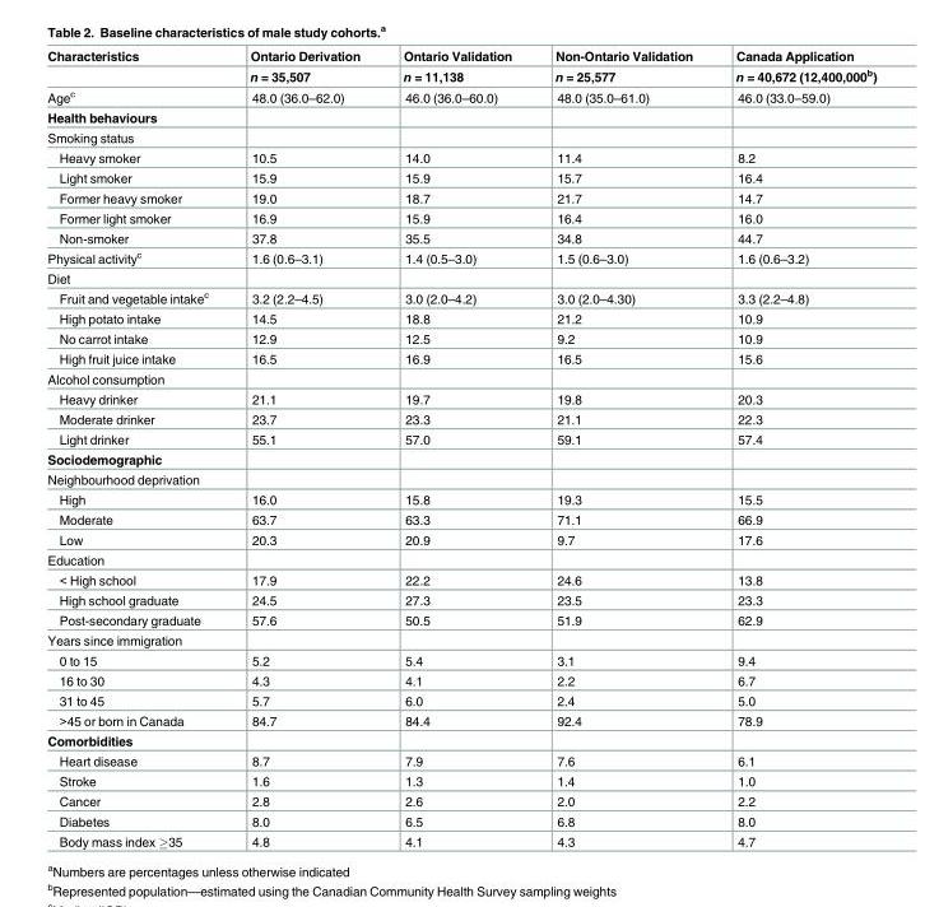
<table><thead><tr><td rowspan="2">Characteristics</td><td rowspan="2">Ontario Derivation n = 35,507</td><td rowspan="2">Ontario Validation n = 11,138</td><td rowspan="2">Non-Ontario Validation n = 25,577</td><td rowspan="2">Canada Application n = 40,672 (12,400,000<sup>b</sup>)</td></tr><tr></tr></thead><tbody><tr><td>Age<sup>c</sup></td><td>48.0 (36.0–62.0)</td><td>46.0 (36.0–60.0)</td><td>48.0 (35.0–61.0)</td><td>46.0 (33.0–59.0)</td></tr><tr><td colspan="5">Health behaviours</td></tr><tr><td colspan="5">Smoking status</td></tr><tr><td>Heavy smoker</td><td>10.5</td><td>14.0</td><td>11.4</td><td>8.2</td></tr><tr><td>Light smoker</td><td>15.9</td><td>15.9</td><td>15.7</td><td>16.4</td></tr><tr><td>Former heavy smoker</td><td>19.0</td><td>18.7</td><td>21.7</td><td>14.7</td></tr><tr><td>Former light smoker</td><td>16.9</td><td>15.9</td><td>16.4</td><td>16.0</td></tr><tr><td>Non-smoker</td><td>37.8</td><td>35.5</td><td>34.8</td><td>44.7</td></tr><tr><td>Physical activity<sup>c</sup></td><td>1.6 (0.6–3.1)</td><td>1.4 (0.5–3.0)</td><td>1.5 (0.6–3.0)</td><td>1.6 (0.6–3.2)</td></tr><tr><td colspan="5">Diet</td></tr><tr><td>Fruit and vegetable intake<sup>c</sup></td><td>3.2 (2.2–4.5)</td><td>3.0 (2.0–4.2)</td><td>3.0 (2.0–4.30)</td><td>3.3 (2.2–4.8)</td></tr><tr><td>High potato intake</td><td>14.5</td><td>18.8</td><td>21.2</td><td>10.9</td></tr><tr><td>No carrot intake</td><td>12.9</td><td>12.5</td><td>9.2</td><td>10.9</td></tr><tr><td>High fruit juice intake</td><td>16.5</td><td>16.9</td><td>16.5</td><td>15.6</td></tr><tr><td colspan="5">Alcohol consumption</td></tr><tr><td>Heavy drinker</td><td>21.1</td><td>19.7</td><td>19.8</td><td>20.3</td></tr><tr><td>Moderate drinker</td><td>23.7</td><td>23.3</td><td>21.1</td><td>22.3</td></tr><tr><td>Light drinker</td><td>55.1</td><td>57.0</td><td>59.1</td><td>57.4</td></tr><tr><td colspan="5">Sociodemographic</td></tr><tr><td colspan="5">Neighbourhood deprivation</td></tr><tr><td>High</td><td>16.0</td><td>15.8</td><td>19.3</td><td>15.5</td></tr><tr><td>Moderate</td><td>63.7</td><td>63.3</td><td>71.1</td><td>66.9</td></tr><tr><td>Low</td><td>20.3</td><td>20.9</td><td>9.7</td><td>17.6</td></tr><tr><td colspan="5">Education</td></tr><tr><td>&lt; High school</td><td>17.9</td><td>22.2</td><td>24.6</td><td>13.8</td></tr><tr><td>High school graduate</td><td>24.5</td><td>27.3</td><td>23.5</td><td>23.3</td></tr><tr><td>Post-secondary graduate</td><td>57.6</td><td>50.5</td><td>51.9</td><td>62.9</td></tr><tr><td colspan="5">Years since immigration</td></tr><tr><td>0 to 15</td><td>5.2</td><td>5.4</td><td>3.1</td><td>9.4</td></tr><tr><td>16 to 30</td><td>4.3</td><td>4.1</td><td>2.2</td><td>6.7</td></tr><tr><td>31 to 45</td><td>5.7</td><td>6.0</td><td>2.4</td><td>5.0</td></tr><tr><td>&gt;45 or born in Canada</td><td>84.7</td><td>84.4</td><td>92.4</td><td>78.9</td></tr><tr><td colspan="5">Comorbidities</td></tr><tr><td>Heart disease</td><td>8.7</td><td>7.9</td><td>7.6</td><td>6.1</td></tr><tr><td>Stroke</td><td>1.6</td><td>1.3</td><td>1.4</td><td>1.0</td></tr><tr><td>Cancer</td><td>2.8</td><td>2.6</td><td>2.0</td><td>2.2</td></tr><tr><td>Diabetes</td><td>8.0</td><td>6.5</td><td>6.8</td><td>8.0</td></tr><tr><td>Body mass index ≥35</td><td>4.8</td><td>4.1</td><td>4.3</td><td>4.7</td></tr></tbody></table>